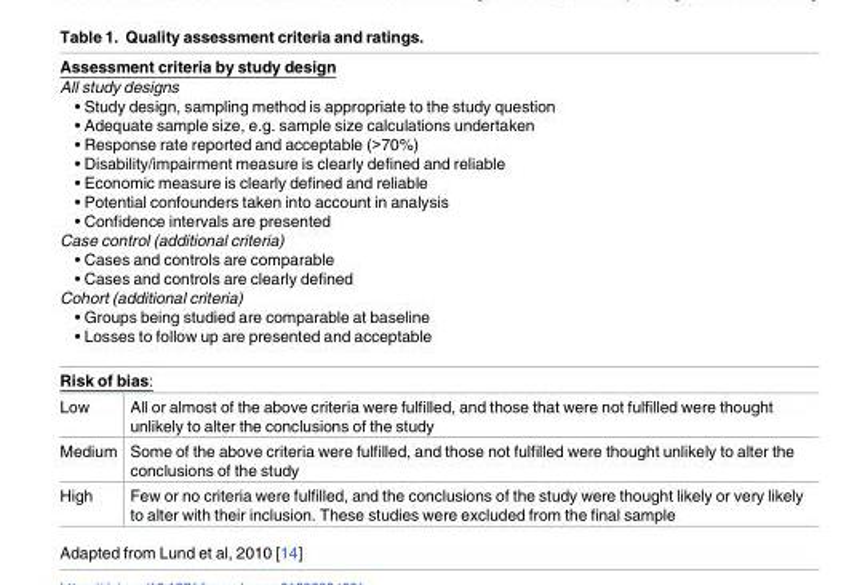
<table><tbody><tr><td colspan="2">Assessment criteria by study design All study designs • Study design, sampling method is appropriate to the study question • Adequate sample size, e.g. sample size calculations undertaken • Response rate reported and acceptable (&gt;70%) • Disability/impairment measure is clearly defined and reliable • Economic measure is clearly defined and reliable • Potential confounders taken into account in analysis • Confidence intervals are presented Case control (additional criteria) • Cases and controls are comparable • Cases and controls are clearly defined Cohort (additional criteria) • Groups being studied are comparable at baseline • Losses to follow up are presented and acceptable</td></tr><tr><td colspan="2">Risk of bias:</td></tr><tr><td>Low</td><td>All or almost of the above criteria were fulfilled, and those that were not fulfilled were thought unlikely to alter the conclusions of the study</td></tr><tr><td>Medium</td><td>Some of the above criteria were fulfilled, and those not fulfilled were thought unlikely to alter the conclusions of the study</td></tr><tr><td>High</td><td>Few or no criteria were fulfilled, and the conclusions of the study were thought likely or very likely to alter with their inclusion. These studies were excluded from the final sample</td></tr></tbody></table>